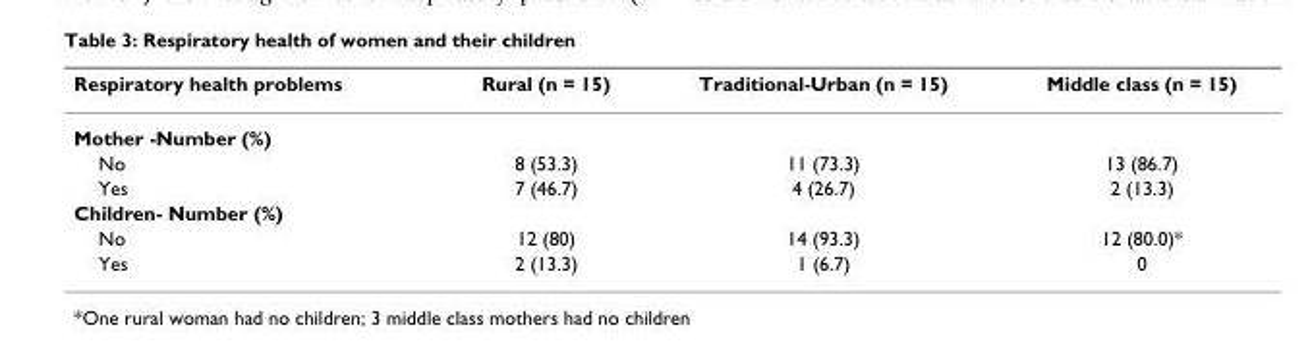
<table><thead><tr><td>Respiratory health problems</td><td>Rural (n = 15)</td><td>Traditional-Urban (n = 15)</td><td>Middle class (n = 15)</td></tr></thead><tbody><tr><td colspan="4">Mother -Number (%)</td></tr><tr><td>No</td><td>8 (53.3)</td><td>11 (73.3)</td><td>13 (86.7)</td></tr><tr><td>Yes</td><td>7 (46.7)</td><td>4 (26.7)</td><td>2 (13.3)</td></tr><tr><td colspan="4">Children- Number (%)</td></tr><tr><td>No</td><td>12 (80)</td><td>14 (93.3)</td><td>12 (80.0)*</td></tr><tr><td>Yes</td><td>2 (13.3)</td><td>1 (6.7)</td><td>0</td></tr></tbody></table>